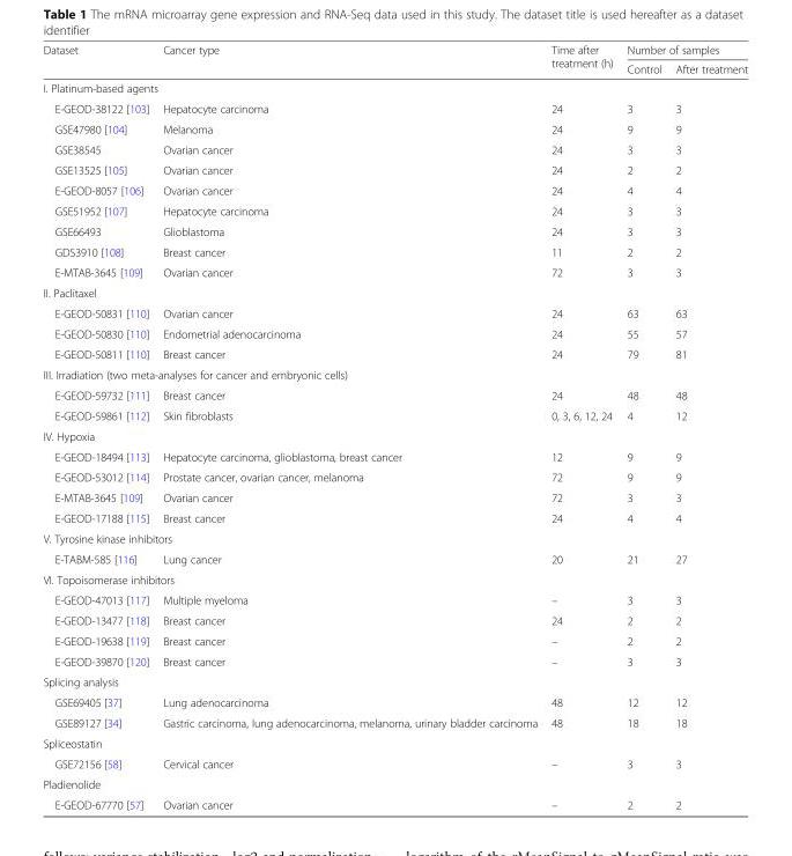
<table><thead><tr><td rowspan="2">Dataset</td><td rowspan="2">Cancer type</td><td rowspan="2">Time after treatment (h)</td><td colspan="2">Number of samples</td></tr><tr><td>Control</td><td>After treatment</td></tr></thead><tbody><tr><td colspan="5">I. Platinum-based agents</td></tr><tr><td>E-GEOD-38122 [103]</td><td>Hepatocyte carcinoma</td><td>24</td><td>3</td><td>3</td></tr><tr><td>GSE47980 [104]</td><td>Melanoma</td><td>24</td><td>9</td><td>9</td></tr><tr><td>GSE38545</td><td>Ovarian cancer</td><td>24</td><td>3</td><td>3</td></tr><tr><td>GSE13525 [105]</td><td>Ovarian cancer</td><td>24</td><td>2</td><td>2</td></tr><tr><td>E-GEOD-8057 [106]</td><td>Ovarian cancer</td><td>24</td><td>4</td><td>4</td></tr><tr><td>GSE51952 [107]</td><td>Hepatocyte carcinoma</td><td>24</td><td>3</td><td>3</td></tr><tr><td>GSE66493</td><td>Glioblastoma</td><td>24</td><td>3</td><td>3</td></tr><tr><td>GDS3910 [108]</td><td>Breast cancer</td><td>11</td><td>2</td><td>2</td></tr><tr><td>E-MTAB-3645 [109]</td><td>Ovarian cancer</td><td>72</td><td>3</td><td>3</td></tr><tr><td colspan="5">II. Paclitaxel</td></tr><tr><td>E-GEOD-50831 [110]</td><td>Ovarian cancer</td><td>24</td><td>63</td><td>63</td></tr><tr><td>E-GEOD-50830 [110]</td><td>Endometrial adenocarcinoma</td><td>24</td><td>55</td><td>57</td></tr><tr><td>E-GEOD-50811 [110]</td><td>Breast cancer</td><td>24</td><td>79</td><td>81</td></tr><tr><td colspan="5">III. Irradiation (two meta-analyses for cancer and embryonic cells)</td></tr><tr><td>E-GEOD-59732 [111]</td><td>Breast cancer</td><td>24</td><td>48</td><td>48</td></tr><tr><td>E-GEOD-59861 [112]</td><td>Skin fibroblasts</td><td>0, 3, 6, 12, 24</td><td>4</td><td>12</td></tr><tr><td colspan="5">IV. Hypoxia</td></tr><tr><td>E-GEOD-18494 [113]</td><td>Hepatocyte carcinoma, glioblastoma, breast cancer</td><td>12</td><td>9</td><td>9</td></tr><tr><td>E-GEOD-53012 [114]</td><td>Prostate cancer, ovarian cancer, melanoma</td><td>72</td><td>9</td><td>9</td></tr><tr><td>E-MTAB-3645 [109]</td><td>Ovarian cancer</td><td>72</td><td>3</td><td>3</td></tr><tr><td>E-GEOD-17188 [115]</td><td>Breast cancer</td><td>24</td><td>4</td><td>4</td></tr><tr><td colspan="5">V. Tyrosine kinase inhibitors</td></tr><tr><td>E-TABM-585 [116]</td><td>Lung cancer</td><td>20</td><td>21</td><td>27</td></tr><tr><td colspan="5">VI. Topoisomerase inhibitors</td></tr><tr><td>E-GEOD-47013 [117]</td><td>Multiple myeloma</td><td>–</td><td>3</td><td>3</td></tr><tr><td>E-GEOD-13477 [118]</td><td>Breast cancer</td><td>24</td><td>2</td><td>2</td></tr><tr><td>E-GEOD-19638 [119]</td><td>Breast cancer</td><td>–</td><td>2</td><td>2</td></tr><tr><td>E-GEOD-39870 [120]</td><td>Breast cancer</td><td>–</td><td>3</td><td>3</td></tr><tr><td colspan="5">Splicing analysis</td></tr><tr><td>GSE69405 [37]</td><td>Lung adenocarcinoma</td><td>48</td><td>12</td><td>12</td></tr><tr><td>GSE89127 [34]</td><td>Gastric carcinoma, lung adenocarcinoma, melanoma, urinary bladder carcinoma</td><td>48</td><td>18</td><td>18</td></tr><tr><td colspan="5">Spliceostatin</td></tr><tr><td>GSE72156 [58]</td><td>Cervical cancer</td><td>–</td><td>3</td><td>3</td></tr><tr><td colspan="5">Pladienolide</td></tr><tr><td>E-GEOD-67770 [57]</td><td>Ovarian cancer</td><td>–</td><td>2</td><td>2</td></tr></tbody></table>